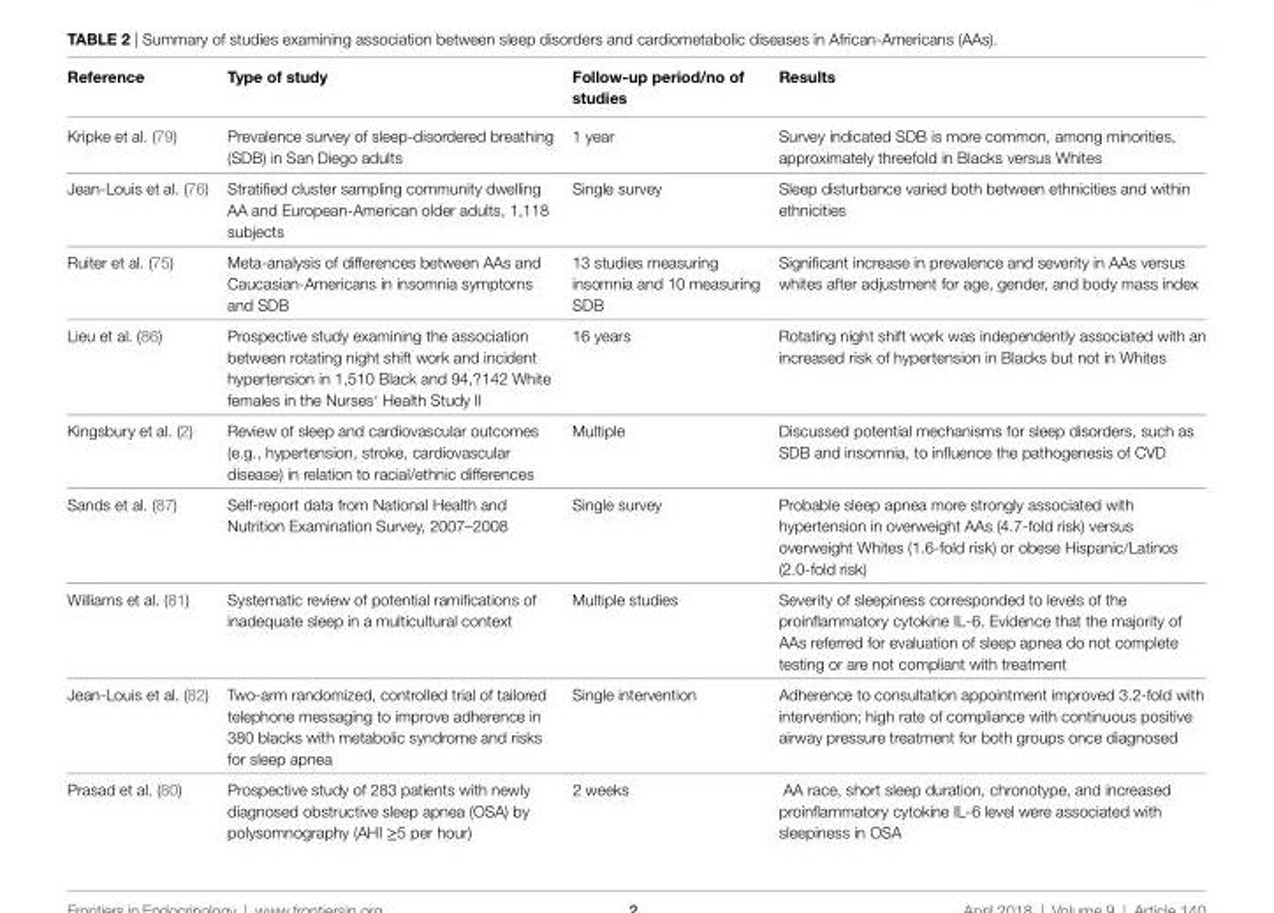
<table><thead><tr><td>Reference</td><td>Type of study</td><td>Follow-up period/no of studies</td><td>Results</td></tr></thead><tbody><tr><td>Kripke et al. (79)</td><td>Prevalence survey of sleep-disordered breathing (SDB) in San Diego adults</td><td>1 year</td><td>Survey indicated SDB is more common, among minorities, approximately threefold in Blacks versus Whites</td></tr><tr><td>Jean-Louis et al. (76)</td><td>Stratified cluster sampling community dwelling AA and European-American older adults, 1,118 subjects</td><td>Single survey</td><td>Sleep disturbance varied both between ethnicities and within ethnicities</td></tr><tr><td>Ruiter et al. (75)</td><td>Meta-analysis of differences between AAs and Caucasian-Americans in insomnia symptoms and SDB</td><td>13 studies measuring insomnia and 10 measuring SDB</td><td>Significant increase in prevalence and severity in AAs versus whites after adjustment for age, gender, and body mass index</td></tr><tr><td>Lieu et al. (86)</td><td>Prospective study examining the association between rotating night shift work and incident hypertension in 1,510 Black and 94,?142 White females in the Nurses′ Health Study II</td><td>16 years</td><td>Rotating night shift work was independently associated with an increased risk of hypertension in Blacks but not in Whites</td></tr><tr><td>Kingsbury et al. (2)</td><td>Review of sleep and cardiovascular outcomes (e.g., hypertension, stroke, cardiovascular disease) in relation to racial/ethnic differences</td><td>Multiple</td><td>Discussed potential mechanisms for sleep disorders, such as SDB and insomnia, to influence the pathogenesis of CVD</td></tr><tr><td>Sands et al. (87)</td><td>Self-report data from National Health and Nutrition Examination Survey, 2007–2008</td><td>Single survey</td><td>Probable sleep apnea more strongly associated with hypertension in overweight AAs (4.7-fold risk) versus overweight Whites (1.6-fold risk) or obese Hispanic/Latinos (2.0-fold risk)</td></tr><tr><td>Williams et al. (81)</td><td>Systematic review of potential ramifications of inadequate sleep in a multicultural context</td><td>Multiple studies</td><td>Severity of sleepiness corresponded to levels of the proinflammatory cytokine IL-6. Evidence that the majority of AAs referred for evaluation of sleep apnea do not complete testing or are not compliant with treatment</td></tr><tr><td>Jean-Louis et al. (82)</td><td>Two-arm randomized, controlled trial of tailored telephone messaging to improve adherence in 380 blacks with metabolic syndrome and risks for sleep apnea</td><td>Single intervention</td><td>Adherence to consultation appointment improved 3.2-fold with intervention; high rate of compliance with continuous positive airway pressure treatment for both groups once diagnosed</td></tr><tr><td>Prasad et al. (80)</td><td>Prospective study of 283 patients with newly diagnosed obstructive sleep apnea (OSA) by polysomnography (AHI ≥5 per hour)</td><td>2 weeks</td><td>AA race, short sleep duration, chronotype, and increased proinflammatory cytokine IL-6 level were associated with sleepiness in OSA</td></tr></tbody></table>